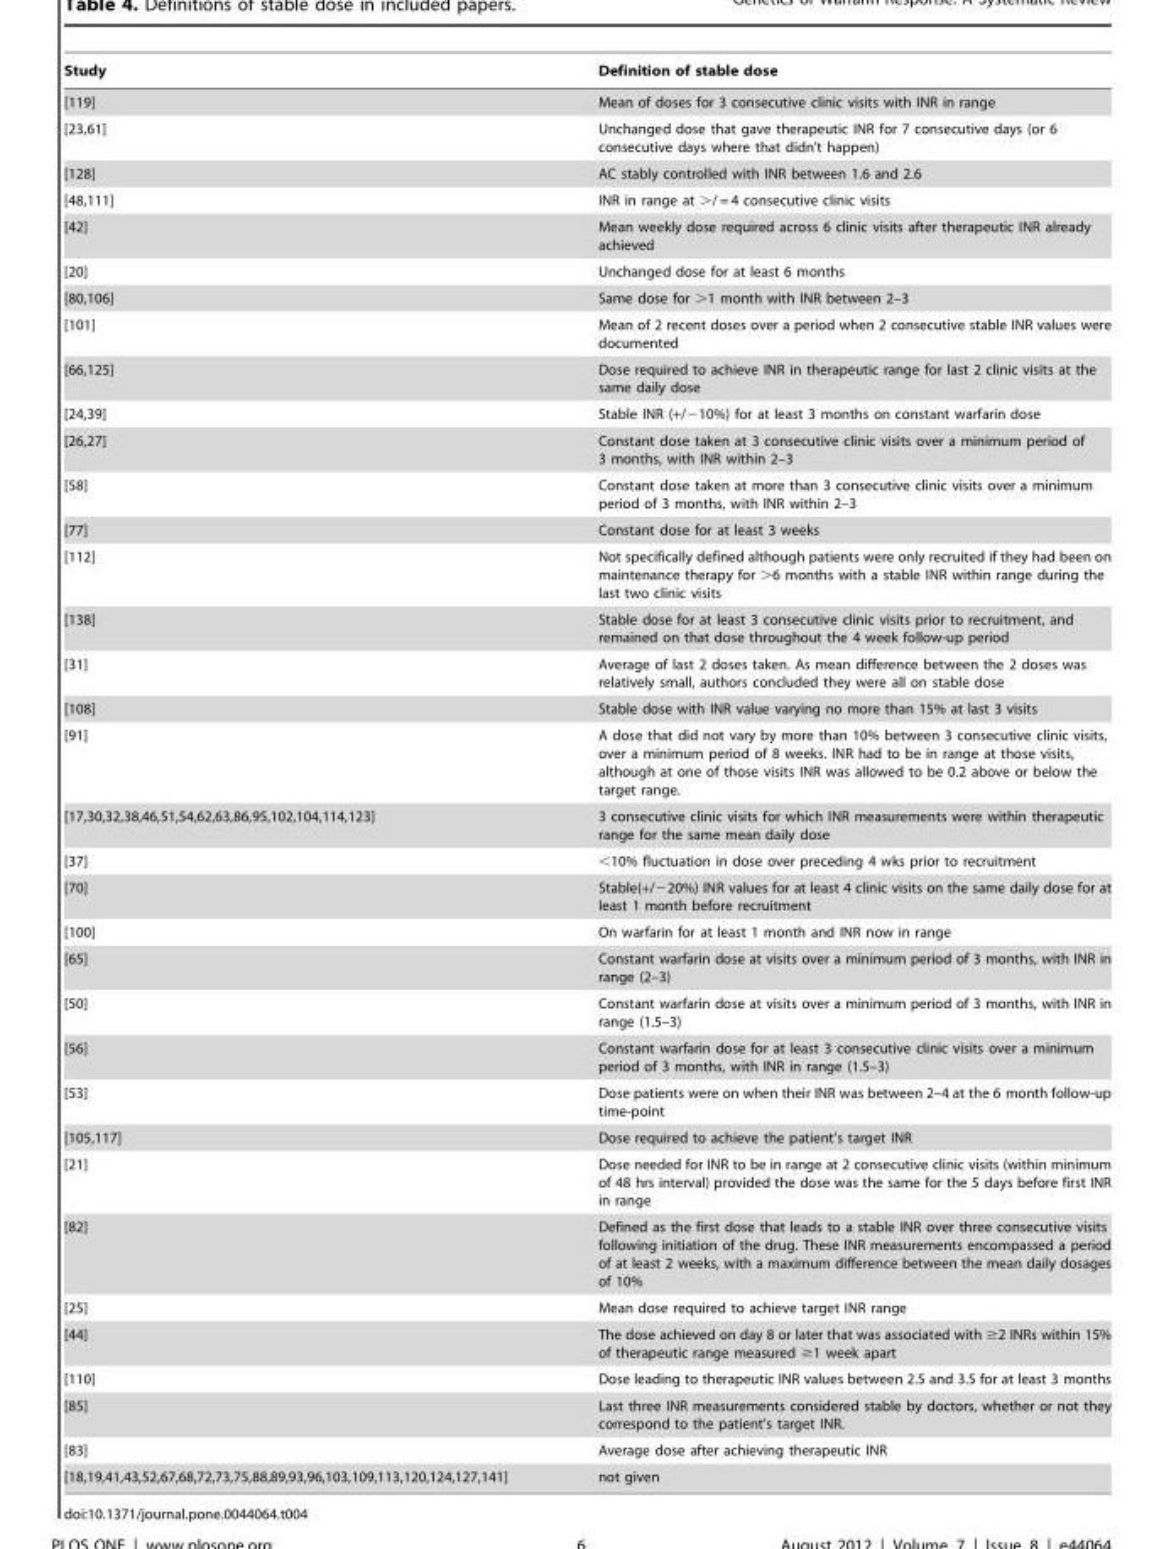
<table><thead><tr><td>Study</td><td>Definition of stable dose</td></tr></thead><tbody><tr><td>[119]</td><td>Mean of doses for 3 consecutive clinic visits with INR in range</td></tr><tr><td>[23,61]</td><td>Unchanged dose that gave therapeutic INR for 7 consecutive days (or 6 consecutive days where that didn’t happen)</td></tr><tr><td>[128]</td><td>AC stably controlled with INR between 1.6 and 2.6</td></tr><tr><td>[48,111]</td><td>INR in range at &gt;/ = 4 consecutive clinic visits</td></tr><tr><td>[42]</td><td>Mean weekly dose required across 6 clinic visits after therapeutic INR already achieved</td></tr><tr><td>[20]</td><td>Unchanged dose for at least 6 months</td></tr><tr><td>[80,106]</td><td>Same dose for &gt;1 month with INR between 2–3</td></tr><tr><td>[101]</td><td>Mean of 2 recent doses over a period when 2 consecutive stable INR values were documented</td></tr><tr><td>[66,125]</td><td>Dose required to achieve INR in therapeutic range for last 2 clinic visits at the same daily dose</td></tr><tr><td>[24,39]</td><td>Stable INR (+/−10%) for at least 3 months on constant warfarin dose</td></tr><tr><td>[26,27]</td><td>Constant dose taken at 3 consecutive clinic visits over a minimum period of 3 months, with INR within 2–3</td></tr><tr><td>[58]</td><td>Constant dose taken at more than 3 consecutive clinic visits over a minimum period of 3 months, with INR within 2–3</td></tr><tr><td>[77]</td><td>Constant dose for at least 3 weeks</td></tr><tr><td>[112]</td><td>Not specifically defined although patients were only recruited if they had been on maintenance therapy for &gt;6 months with a stable INR within range during the last two clinic visits</td></tr><tr><td>[138]</td><td>Stable dose for at least 3 consecutive clinic visits prior to recruitment, and remained on that dose throughout the 4 week follow-up period</td></tr><tr><td>[31]</td><td>Average of last 2 doses taken. As mean difference between the 2 doses was relatively small, authors concluded they were all on stable dose</td></tr><tr><td>[108]</td><td>Stable dose with INR value varying no more than 15% at last 3 visits</td></tr><tr><td>[91]</td><td>A dose that did not vary by more than 10% between 3 consecutive clinic visits, over a minimum period of 8 weeks. INR had to be in range at those visits, although at one of those visits INR was allowed to be 0.2 above or below the target range.</td></tr><tr><td>[17,30,32,38,46,51,54,62,63,86,95,102,104,114,123]</td><td>3 consecutive clinic visits for which INR measurements were within therapeutic range for the same mean daily dose</td></tr><tr><td>[37]</td><td>&lt;10% fluctuation in dose over preceding 4 wks prior to recruitment</td></tr><tr><td>[70]</td><td>Stable(+/−20%) INR values for at least 4 clinic visits on the same daily dose for at least 1 month before recruitment</td></tr><tr><td>[100]</td><td>On warfarin for at least 1 month and INR now in range</td></tr><tr><td>[65]</td><td>Constant warfarin dose at visits over a minimum period of 3 months, with INR in range (2–3)</td></tr><tr><td>[50]</td><td>Constant warfarin dose at visits over a minimum period of 3 months, with INR in range (1.5–3)</td></tr><tr><td>[56]</td><td>Constant warfarin dose for at least 3 consecutive clinic visits over a minimum period of 3 months, with INR in range (1.5–3)</td></tr><tr><td>[53]</td><td>Dose patients were on when their INR was between 2–4 at the 6 month follow-up time-point</td></tr><tr><td>[105,117]</td><td>Dose required to achieve the patient’s target INR</td></tr><tr><td>[21]</td><td>Dose needed for INR to be in range at 2 consecutive clinic visits (within minimum of 48 hrs interval) provided the dose was the same for the 5 days before first INR in range</td></tr><tr><td>[82]</td><td>Defined as the first dose that leads to a stable INR over three consecutive visits following initiation of the drug. These INR measurements encompassed a period of at least 2 weeks, with a maximum difference between the mean daily dosages of 10%</td></tr><tr><td>[25]</td><td>Mean dose required to achieve target INR range</td></tr><tr><td>[44]</td><td>The dose achieved on day 8 or later that was associated with ≥2 INRs within 15% of therapeutic range measured ≥1 week apart</td></tr><tr><td>[110]</td><td>Dose leading to therapeutic INR values between 2.5 and 3.5 for at least 3 months</td></tr><tr><td>[85]</td><td>Last three INR measurements considered stable by doctors, whether or not they correspond to the patient’s target INR.</td></tr><tr><td>[83]</td><td>Average dose after achieving therapeutic INR</td></tr><tr><td>[18,19,41,43,52,67,68,72,73,75,88,89,93,96,103,109,113,120,124,127,141]</td><td>not given</td></tr></tbody></table>